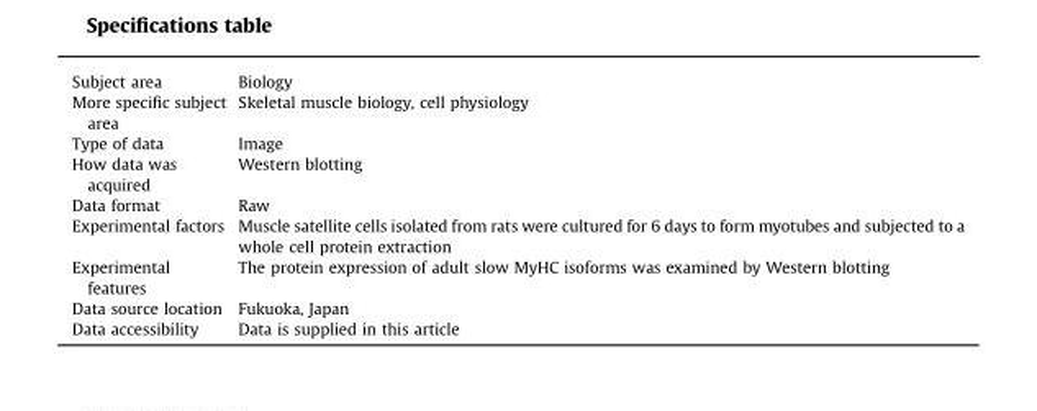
<table><tbody><tr><td>Subject area</td><td>Biology</td></tr><tr><td>More specific subject area</td><td>Skeletal muscle biology, cell physiology</td></tr><tr><td>Type of data</td><td>Image</td></tr><tr><td>How data was acquired</td><td>Western blotting</td></tr><tr><td>Data format</td><td>Raw</td></tr><tr><td>Experimental factors</td><td>Muscle satellite cells isolated from rats were cultured for 6 days to form myotubes and subjected to a whole cell protein extraction</td></tr><tr><td>Experimental features</td><td>The protein expression of adult slow MyHC isoforms was examined by Western blotting</td></tr><tr><td>Data source location</td><td>Fukuoka, Japan</td></tr><tr><td>Data accessibility</td><td>Data is supplied in this article</td></tr></tbody></table>